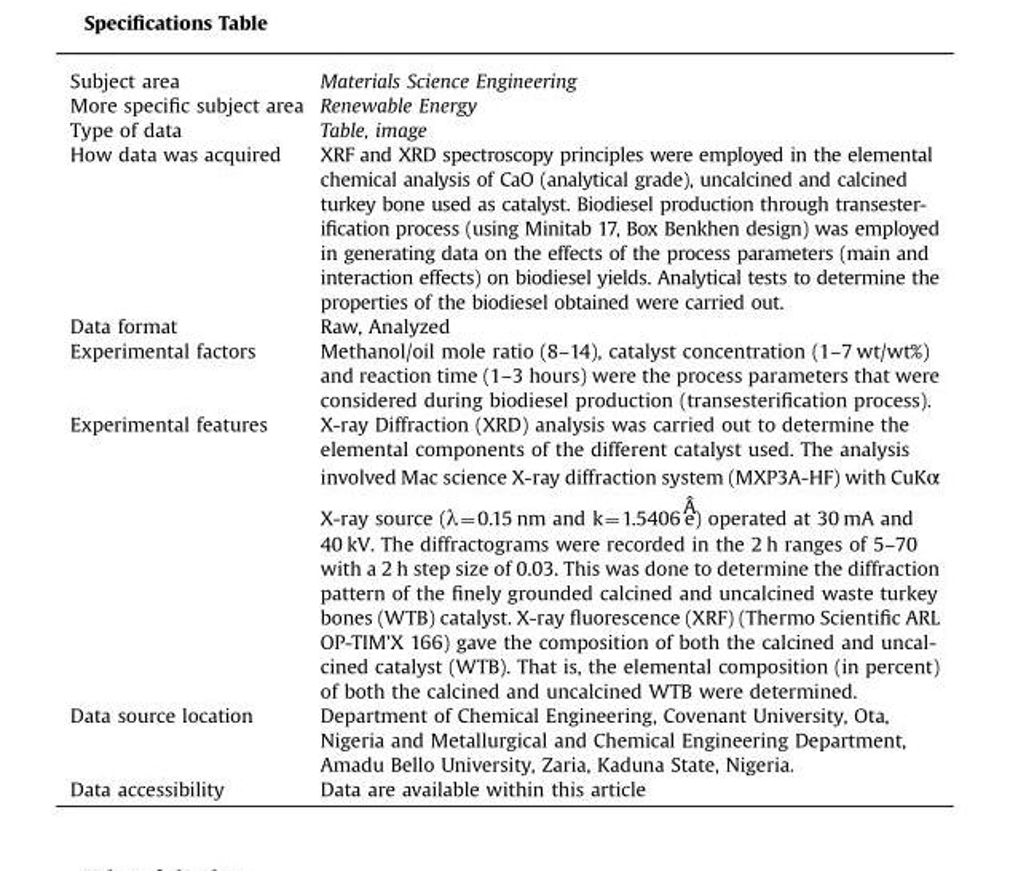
<table><tbody><tr><td>Subject area</td><td>Materials Science Engineering</td></tr><tr><td>More specific subject area</td><td>Renewable Energy</td></tr><tr><td>Type of data</td><td>Table, image</td></tr><tr><td>How data was acquired</td><td>XRF and XRD spectroscopy principles were employed in the elemental chemical analysis of CaO (analytical grade), uncalcined and calcined turkey bone used as catalyst. Biodiesel production through transester- ification process (using Minitab 17, Box Benkhen design) was employed in generating data on the effects of the process parameters (main and interaction effects) on biodiesel yields. Analytical tests to determine the properties of the biodiesel obtained were carried out.</td></tr><tr><td>Data format</td><td>Raw, Analyzed</td></tr><tr><td>Experimental factors</td><td>Methanol/oil mole ratio (8–14), catalyst concentration (1–7 wt/wt%) and reaction time (1–3 hours) were the process parameters that were considered during biodiesel production (transesterification process).</td></tr><tr><td>Experimental features</td><td>X-ray Diffraction (XRD) analysis was carried out to determine the elemental components of the different catalyst used. The analysis involved Mac science X-ray diffraction system (MXP3A-HF) with CuKα X-ray source (λ¼0.15 nm and k¼1.5406Âe) operated at 30 mA and 40 kV. The diffractograms were recorded in the 2 h ranges of 5–70 with a 2 h step size of 0.03. This was done to determine the diffraction pattern of the finely grounded calcined and uncalcined waste turkey bones (WTB) catalyst. X-ray fluorescence (XRF) (Thermo Scientific ARL OP-TIM’X 166) gave the composition of both the calcined and uncal- cined catalyst (WTB). That is, the elemental composition (in percent) of both the calcined and uncalcined WTB were determined.</td></tr><tr><td>Data source location</td><td>Department of Chemical Engineering, Covenant University, Ota, Nigeria and Metallurgical and Chemical Engineering Department, Amadu Bello University, Zaria, Kaduna State, Nigeria.</td></tr><tr><td>Data accessibility</td><td>Data are available within this article</td></tr></tbody></table>